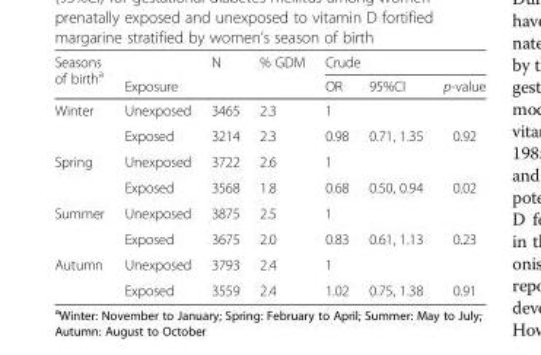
<table><thead><tr><td rowspan="2">Seasons of birth<sup>a</sup></td><td rowspan="2">Exposure</td><td rowspan="2">N</td><td rowspan="2">% GDM</td><td colspan="3">Crude</td></tr><tr><td>OR</td><td>95%CI</td><td>p-value</td></tr></thead><tbody><tr><td rowspan="2">Winter</td><td>Unexposed</td><td>3465</td><td>2.3</td><td>1</td><td></td><td></td></tr><tr><td>Exposed</td><td>3214</td><td>2.3</td><td>0.98</td><td>0.71, 1.35</td><td>0.92</td></tr><tr><td rowspan="2">Spring</td><td>Unexposed</td><td>3722</td><td>2.6</td><td>1</td><td></td><td></td></tr><tr><td>Exposed</td><td>3568</td><td>1.8</td><td>0.68</td><td>0.50, 0.94</td><td>0.02</td></tr><tr><td rowspan="2">Summer</td><td>Unexposed</td><td>3875</td><td>2.5</td><td>1</td><td></td><td></td></tr><tr><td>Exposed</td><td>3675</td><td>2.0</td><td>0.83</td><td>0.61, 1.13</td><td>0.23</td></tr><tr><td rowspan="2">Autumn</td><td>Unexposed</td><td>3793</td><td>2.4</td><td>1</td><td></td><td></td></tr><tr><td>Exposed</td><td>3559</td><td>2.4</td><td>1.02</td><td>0.75, 1.38</td><td>0.91</td></tr></tbody></table>